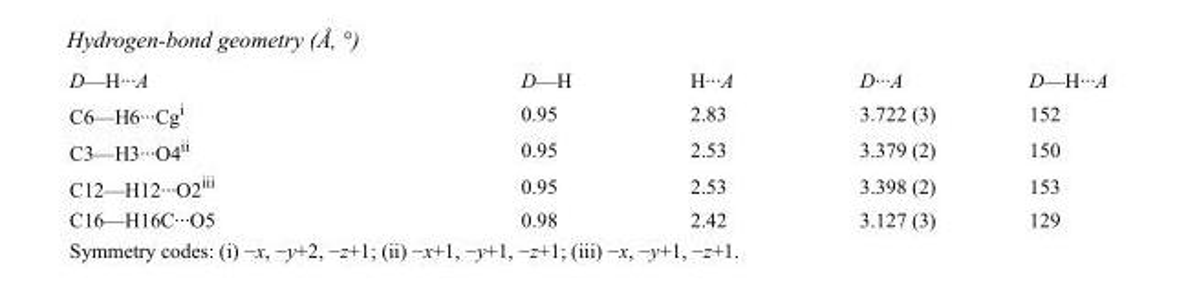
<table><tbody><tr><td>D—H···A</td><td>D—H</td><td>H···A</td><td>D···A</td><td>D—H···A</td></tr><tr><td>C6—H6···Cg<sup>i</sup></td><td>0.95</td><td>2.83</td><td>3.722 (3)</td><td>152</td></tr><tr><td>C3—H3···O4<sup>ii</sup></td><td>0.95</td><td>2.53</td><td>3.379 (2)</td><td>150</td></tr><tr><td>C12—H12···O2<sup>iii</sup></td><td>0.95</td><td>2.53</td><td>3.398 (2)</td><td>153</td></tr><tr><td>C16—H16C···O5</td><td>0.98</td><td>2.42</td><td>3.127 (3)</td><td>129</td></tr></tbody></table>